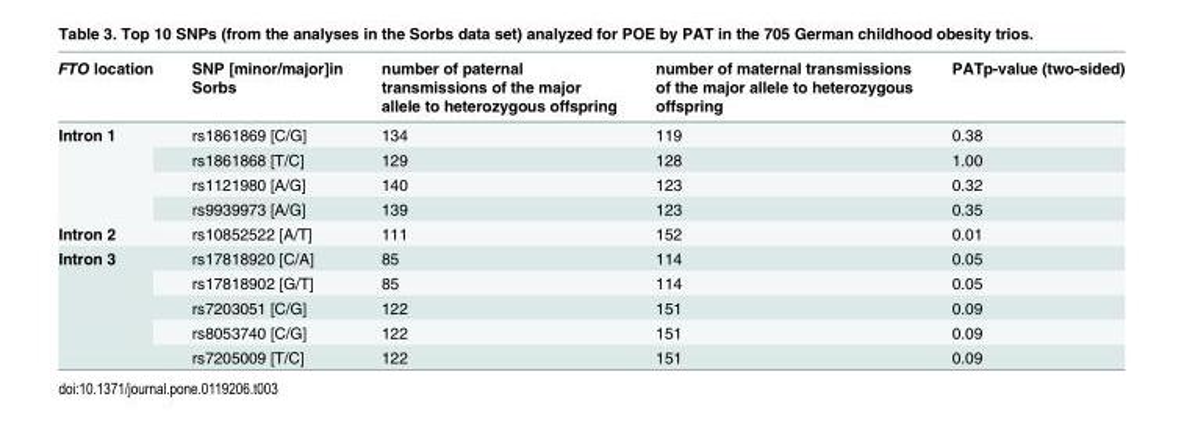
<table><thead><tr><td>FTO location</td><td>SNP [minor/major]in Sorbs</td><td>number of paternal transmissions of the major allele to heterozygous offspring</td><td>number of maternal transmissions of the major allele to heterozygous offspring</td><td>PATp-value (two-sided)</td></tr></thead><tbody><tr><td rowspan="4">Intron 1</td><td>rs1861869 [C/G]</td><td>134</td><td>119</td><td>0.38</td></tr><tr><td>rs1861868 [T/C]</td><td>129</td><td>128</td><td>1.00</td></tr><tr><td>rs1121980 [A/G]</td><td>140</td><td>123</td><td>0.32</td></tr><tr><td>rs9939973 [A/G]</td><td>139</td><td>123</td><td>0.35</td></tr><tr><td>Intron 2</td><td>rs10852522 [A/T]</td><td>111</td><td>152</td><td>0.01</td></tr><tr><td rowspan="5">Intron 3</td><td>rs17818920 [C/A]</td><td>85</td><td>114</td><td>0.05</td></tr><tr><td>rs17818902 [G/T]</td><td>85</td><td>114</td><td>0.05</td></tr><tr><td>rs7203051 [C/G]</td><td>122</td><td>151</td><td>0.09</td></tr><tr><td>rs8053740 [C/G]</td><td>122</td><td>151</td><td>0.09</td></tr><tr><td>rs7205009 [T/C]</td><td>122</td><td>151</td><td>0.09</td></tr></tbody></table>